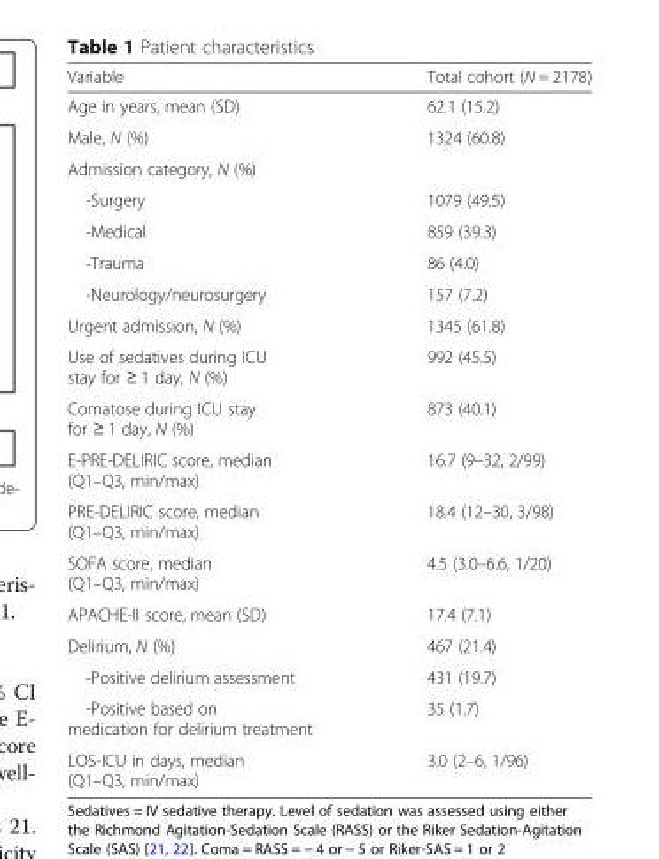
<table><thead><tr><td>Variable</td><td>Total cohort (N = 2178)</td></tr></thead><tbody><tr><td>Age in years, mean (SD)</td><td>62.1 (15.2)</td></tr><tr><td>Male, N (%)</td><td>1324 (60.8)</td></tr><tr><td colspan="2">Admission category, N (%)</td></tr><tr><td>-Surgery</td><td>1079 (49.5)</td></tr><tr><td>-Medical</td><td>859 (39.3)</td></tr><tr><td>-Trauma</td><td>86 (4.0)</td></tr><tr><td>-Neurology/neurosurgery</td><td>157 (7.2)</td></tr><tr><td>Urgent admission, N (%)</td><td>1345 (61.8)</td></tr><tr><td>Use of sedatives during ICU stay for ≥ 1 day, N (%)</td><td>992 (45.5)</td></tr><tr><td>Comatose during ICU stay for ≥ 1 day, N (%)</td><td>873 (40.1)</td></tr><tr><td>E-PRE-DELIRIC score, median (Q1–Q3, min/max)</td><td>16.7 (9–32, 2/99)</td></tr><tr><td>PRE-DELIRIC score, median (Q1–Q3, min/max)</td><td>18.4 (12–30, 3/98)</td></tr><tr><td>SOFA score, median (Q1–Q3, min/max)</td><td>4.5 (3.0–6.6, 1/20)</td></tr><tr><td>APACHE-II score, mean (SD)</td><td>17.4 (7.1)</td></tr><tr><td>Delirium, N (%)</td><td>467 (21.4)</td></tr><tr><td>-Positive delirium assessment</td><td>431 (19.7)</td></tr><tr><td>-Positive based on medication for delirium treatment</td><td>35 (1.7)</td></tr><tr><td>LOS-ICU in days, median (Q1–Q3, min/max)</td><td>3.0 (2–6, 1/96)</td></tr></tbody></table>